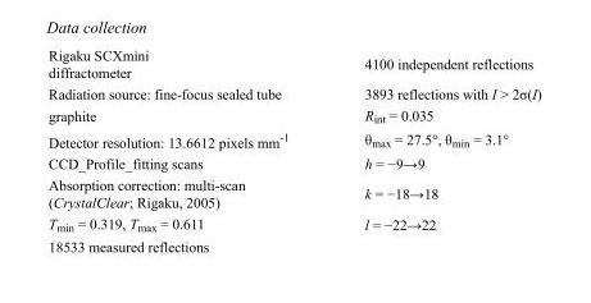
<table><tbody><tr><td>Rigaku SCXmini diffractometer</td><td>4100 independent reflections</td></tr><tr><td>Radiation source: fine-focus sealed tube</td><td>3893 reflections with I &gt; 2σ(I)</td></tr><tr><td>graphite</td><td>R<sub>int</sub> = 0.035</td></tr><tr><td>Detector resolution: 13.6612 pixels mm<sup>-1</sup></td><td>θ<sub>max</sub> = 27.5°, θ<sub>min</sub> = 3.1°</td></tr><tr><td>CCD_Profile_fitting scans</td><td>h = −9→9</td></tr><tr><td>Absorption correction: multi-scan (CrystalClear; Rigaku, 2005)</td><td>k = −18→18</td></tr><tr><td>T<sub>min</sub> = 0.319, T<sub>max</sub> = 0.611</td><td>l = −22→22</td></tr><tr><td>18533 measured reflections</td><td></td></tr></tbody></table>